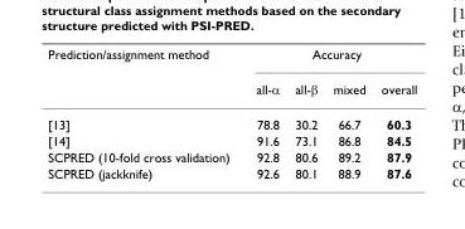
<table><thead><tr><td rowspan="2">Prediction/assignment method</td><td colspan="4">Accuracy</td></tr><tr><td>all-α</td><td>all-β</td><td>mixed</td><td>overall</td></tr></thead><tbody><tr><td>[13]</td><td>78.8</td><td>30.2</td><td>66.7</td><td>60.3</td></tr><tr><td>[14]</td><td>91.6</td><td>73.1</td><td>86.8</td><td>84.5</td></tr><tr><td>SCPRED (10-fold cross validation)</td><td>92.8</td><td>80.6</td><td>89.2</td><td>87.9</td></tr><tr><td>SCPRED (jackknife)</td><td>92.6</td><td>80.1</td><td>88.9</td><td>87.6</td></tr></tbody></table>